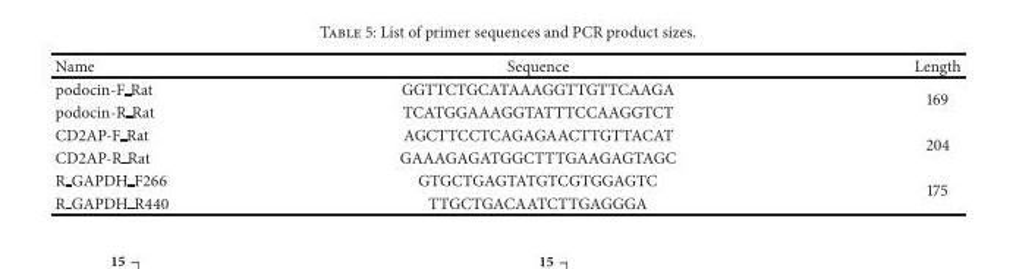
<table><thead><tr><td>Name</td><td>Sequence</td><td>Length</td></tr></thead><tbody><tr><td>podocin-F Rat</td><td>GGTTCTGCATAAAGGTTGTTCAAGA</td><td rowspan="2">169</td></tr><tr><td>podocin-R Rat</td><td>TCATGGAAAGGTATTTCCAAGGTCT</td></tr><tr><td>CD2AP-F Rat</td><td>AGCTTCCTCAGAGAACTTGTTACAT</td><td rowspan="2">204</td></tr><tr><td>CD2AP-R Rat</td><td>GAAAGAGATGGCTTTGAAGAGTAGC</td></tr><tr><td>R <sub>GAPDH</sub> F266</td><td>GTGCTGAGTATGTCGTGGAGTC</td><td rowspan="2">175</td></tr><tr><td>R <sub>GAPDH</sub> R440</td><td>TTGCTGACAATCTTGAGGGA</td></tr></tbody></table>